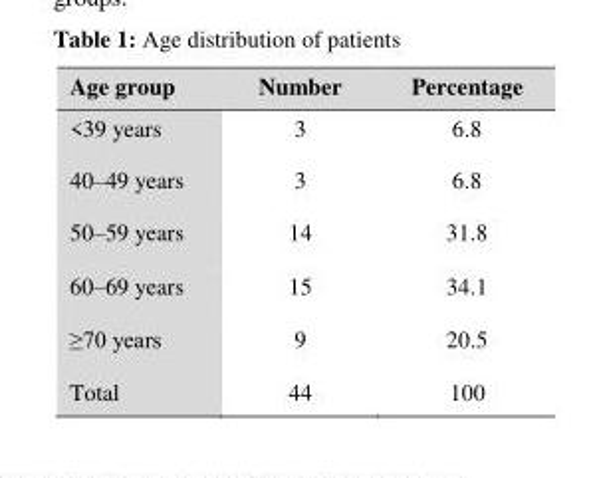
<table><thead><tr><td>Age group</td><td>Number</td><td>Percentage</td></tr></thead><tbody><tr><td>&lt;39 years</td><td>3</td><td>6.8</td></tr><tr><td>40–49 years</td><td>3</td><td>6.8</td></tr><tr><td>50–59 years</td><td>14</td><td>31.8</td></tr><tr><td>60–69 years</td><td>15</td><td>34.1</td></tr><tr><td>≥70 years</td><td>9</td><td>20.5</td></tr><tr><td>Total</td><td>44</td><td>100</td></tr></tbody></table>